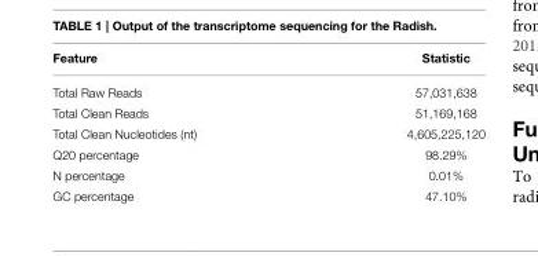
<table><thead><tr><td>Feature</td><td>Statistic</td></tr></thead><tbody><tr><td>Total Raw Reads</td><td>57,031,638</td></tr><tr><td>Total Clean Reads</td><td>51,169,168</td></tr><tr><td>Total Clean Nucleotides (nt)</td><td>4,605,225,120</td></tr><tr><td>Q20 percentage</td><td>98.29%</td></tr><tr><td>N percentage</td><td>0.01%</td></tr><tr><td>GC percentage</td><td>47.10%</td></tr></tbody></table>